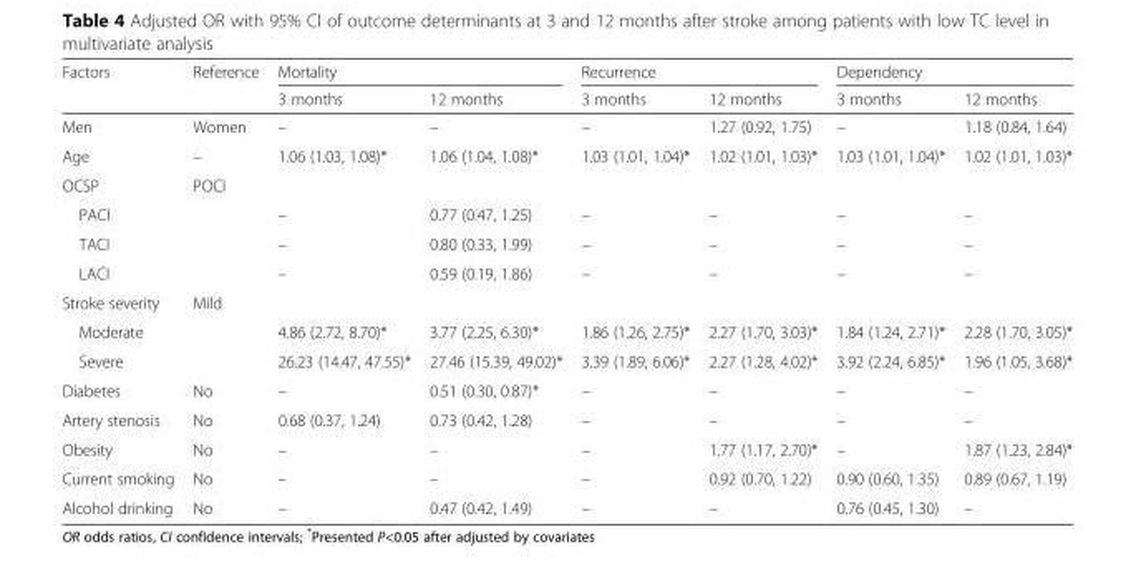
<table><thead><tr><td rowspan="2">Factors</td><td rowspan="2">Reference</td><td colspan="2">Mortality</td><td colspan="2">Recurrence</td><td colspan="2">Dependency</td></tr><tr><td>3 months</td><td>12 months</td><td>3 months</td><td>12 months</td><td>3 months</td><td>12 months</td></tr></thead><tbody><tr><td>Men</td><td>Women</td><td>–</td><td>–</td><td>–</td><td>1.27 (0.92, 1.75)</td><td>–</td><td>1.18 (0.84, 1.64)</td></tr><tr><td>Age</td><td>–</td><td>1.06 (1.03, 1.08)*</td><td>1.06 (1.04, 1.08)*</td><td>1.03 (1.01, 1.04)*</td><td>1.02 (1.01, 1.03)*</td><td>1.03 (1.01, 1.04)*</td><td>1.02 (1.01, 1.03)*</td></tr><tr><td>OCSP</td><td>POCI</td><td></td><td></td><td></td><td></td><td></td><td></td></tr><tr><td>PACI</td><td></td><td>–</td><td>0.77 (0.47, 1.25)</td><td>–</td><td>–</td><td>–</td><td>–</td></tr><tr><td>TACI</td><td></td><td>–</td><td>0.80 (0.33, 1.99)</td><td>–</td><td>–</td><td>–</td><td>–</td></tr><tr><td>LACI</td><td></td><td>–</td><td>0.59 (0.19, 1.86)</td><td>–</td><td>–</td><td>–</td><td>–</td></tr><tr><td>Stroke severity</td><td>Mild</td><td></td><td></td><td></td><td></td><td></td><td></td></tr><tr><td>Moderate</td><td></td><td>4.86 (2.72, 8.70)*</td><td>3.77 (2.25, 6.30)*</td><td>1.86 (1.26, 2.75)*</td><td>2.27 (1.70, 3.03)*</td><td>1.84 (1.24, 2.71)*</td><td>2.28 (1.70, 3.05)*</td></tr><tr><td>Severe</td><td></td><td>26.23 (14.47, 47.55)*</td><td>27.46 (15.39, 49.02)*</td><td>3.39 (1.89, 6.06)*</td><td>2.27 (1.28, 4.02)*</td><td>3.92 (2.24, 6.85)*</td><td>1.96 (1.05, 3.68)*</td></tr><tr><td>Diabetes</td><td>No</td><td>–</td><td>0.51 (0.30, 0.87)*</td><td>–</td><td>–</td><td>–</td><td>–</td></tr><tr><td>Artery stenosis</td><td>No</td><td>0.68 (0.37, 1.24)</td><td>0.73 (0.42, 1.28)</td><td>–</td><td>–</td><td>–</td><td>–</td></tr><tr><td>Obesity</td><td>No</td><td>–</td><td>–</td><td>–</td><td>1.77 (1.17, 2.70)*</td><td>–</td><td>1.87 (1.23, 2.84)*</td></tr><tr><td>Current smoking</td><td>No</td><td>–</td><td>–</td><td>–</td><td>0.92 (0.70, 1.22)</td><td>0.90 (0.60, 1.35)</td><td>0.89 (0.67, 1.19)</td></tr><tr><td>Alcohol drinking</td><td>No</td><td>–</td><td>0.47 (0.42, 1.49)</td><td>–</td><td>–</td><td>0.76 (0.45, 1.30)</td><td>–</td></tr></tbody></table>